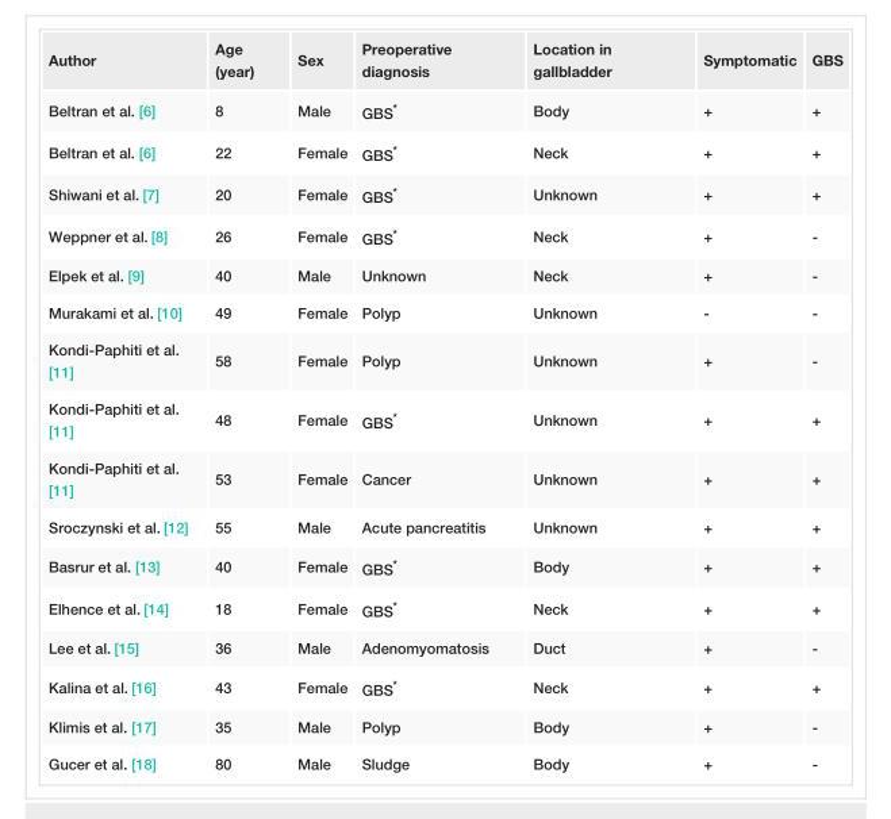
<table><tbody><tr><td>Author</td><td>Age (year)</td><td>Sex</td><td>Preoperative diagnosis</td><td>Location in gallbladder</td><td>Symptomatic</td><td>GBS</td></tr><tr><td>Beltran et al. [6]</td><td>8</td><td>Male</td><td>GBS*</td><td>Body</td><td>+</td><td>+</td></tr><tr><td>Beltran et al. [6]</td><td>22</td><td>Female</td><td>GBS*</td><td>Neck</td><td>+</td><td>+</td></tr><tr><td>Shiwani et al. [7]</td><td>20</td><td>Female</td><td>GBS*</td><td>Unknown</td><td>+</td><td>+</td></tr><tr><td>Weppner et al. [8]</td><td>26</td><td>Female</td><td>GBS*</td><td>Neck</td><td>+</td><td>-</td></tr><tr><td>Elpek et al. [9]</td><td>40</td><td>Male</td><td>Unknown</td><td>Neck</td><td>+</td><td>-</td></tr><tr><td>Murakami et al. [10]</td><td>49</td><td>Female</td><td>Polyp</td><td>Unknown</td><td>-</td><td>-</td></tr><tr><td>Kondi-Paphiti et al. [11]</td><td>58</td><td>Female</td><td>Polyp</td><td>Unknown</td><td>+</td><td>-</td></tr><tr><td>Kondi-Paphiti et al. [11]</td><td>48</td><td>Female</td><td>GBS*</td><td>Unknown</td><td>+</td><td>+</td></tr><tr><td>Kondi-Paphiti et al. [11]</td><td>53</td><td>Female</td><td>Cancer</td><td>Unknown</td><td>+</td><td>+</td></tr><tr><td>Sroczynski et al. [12]</td><td>55</td><td>Male</td><td>Acute pancreatitis</td><td>Unknown</td><td>+</td><td>+</td></tr><tr><td>Basrur et al. [13]</td><td>40</td><td>Female</td><td>GBS*</td><td>Body</td><td>+</td><td>+</td></tr><tr><td>Elhence et al. [14]</td><td>18</td><td>Female</td><td>GBS*</td><td>Neck</td><td>+</td><td>+</td></tr><tr><td>Lee et al. [15]</td><td>36</td><td>Male</td><td>Adenomyomatosis</td><td>Duct</td><td>+</td><td>-</td></tr><tr><td>Kalina et al. [16]</td><td>43</td><td>Female</td><td>GBS*</td><td>Neck</td><td>+</td><td>+</td></tr><tr><td>Klimis et al. [17]</td><td>35</td><td>Male</td><td>Polyp</td><td>Body</td><td>+</td><td>-</td></tr><tr><td>Gucer et al. [18]</td><td>80</td><td>Male</td><td>Sludge</td><td>Body</td><td>+</td><td>-</td></tr></tbody></table>